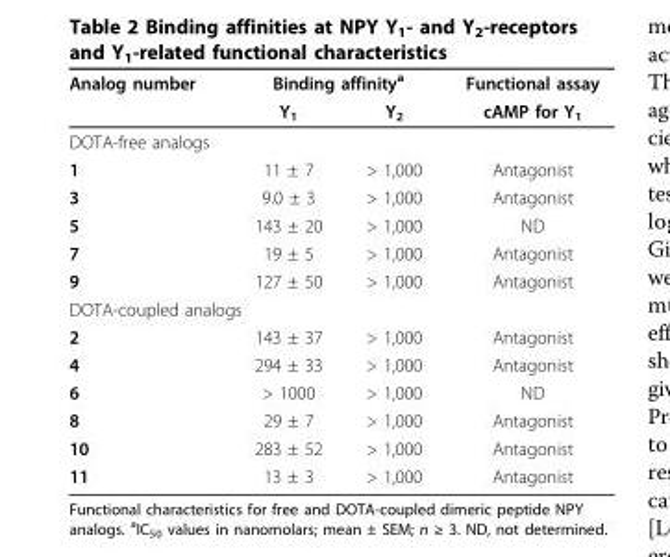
<table><thead><tr><td rowspan="2">Analog number</td><td colspan="2">Binding affinity<sup>a</sup></td><td rowspan="2">Functional assay cAMP for Y<sub>1</sub></td></tr><tr><td>Y<sub>1</sub></td><td>Y<sub>2</sub></td></tr></thead><tbody><tr><td colspan="4">DOTA-free analogs</td></tr><tr><td>1</td><td>11 ± 7</td><td>&gt; 1,000</td><td>Antagonist</td></tr><tr><td>3</td><td>9.0 ± 3</td><td>&gt; 1,000</td><td>Antagonist</td></tr><tr><td>5</td><td>143 ± 20</td><td>&gt; 1,000</td><td>ND</td></tr><tr><td>7</td><td>19 ± 5</td><td>&gt; 1,000</td><td>Antagonist</td></tr><tr><td>9</td><td>127 ± 50</td><td>&gt; 1,000</td><td>Antagonist</td></tr><tr><td colspan="4">DOTA-coupled analogs</td></tr><tr><td>2</td><td>143 ± 37</td><td>&gt; 1,000</td><td>Antagonist</td></tr><tr><td>4</td><td>294 ± 33</td><td>&gt; 1,000</td><td>Antagonist</td></tr><tr><td>6</td><td>&gt; 1000</td><td>&gt; 1,000</td><td>ND</td></tr><tr><td>8</td><td>29 ± 7</td><td>&gt; 1,000</td><td>Antagonist</td></tr><tr><td>10</td><td>283 ± 52</td><td>&gt; 1,000</td><td>Antagonist</td></tr><tr><td>11</td><td>13 ± 3</td><td>&gt; 1,000</td><td>Antagonist</td></tr></tbody></table>